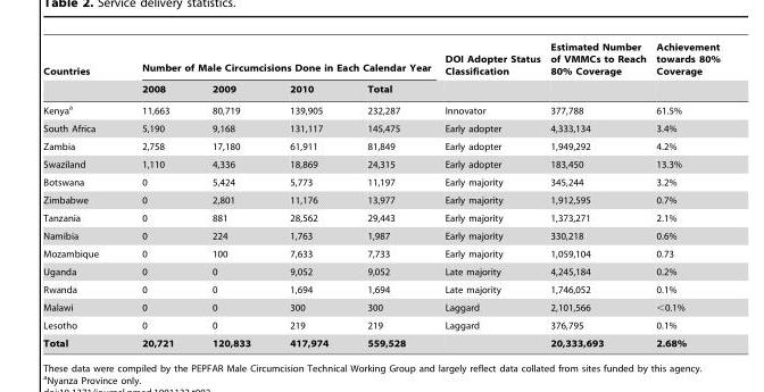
<table><thead><tr><td rowspan="2">Countries</td><td colspan="4">Number of Male Circumcisions Done in Each Calendar Year</td><td rowspan="2">DOI Adopter Status Classification</td><td rowspan="2">Estimated Number of VMMCs to Reach 80% Coverage</td><td rowspan="2">Achievement towards 80% Coverage</td></tr><tr><td>2008</td><td>2009</td><td>2010</td><td>Total</td></tr></thead><tbody><tr><td>Kenya<sup>a</sup></td><td>11,663</td><td>80,719</td><td>139,905</td><td>232,287</td><td>Innovator</td><td>377,788</td><td>61.5%</td></tr><tr><td>South Africa</td><td>5,190</td><td>9,168</td><td>131,117</td><td>145,475</td><td>Early adopter</td><td>4,333,134</td><td>3.4%</td></tr><tr><td>Zambia</td><td>2,758</td><td>17,180</td><td>61,911</td><td>81,849</td><td>Early adopter</td><td>1,949,292</td><td>4.2%</td></tr><tr><td>Swaziland</td><td>1,110</td><td>4,336</td><td>18,869</td><td>24,315</td><td>Early adopter</td><td>183,450</td><td>13.3%</td></tr><tr><td>Botswana</td><td>0</td><td>5,424</td><td>5,773</td><td>11,197</td><td>Early majority</td><td>345,244</td><td>3.2%</td></tr><tr><td>Zimbabwe</td><td>0</td><td>2,801</td><td>11,176</td><td>13,977</td><td>Early majority</td><td>1,912,595</td><td>0.7%</td></tr><tr><td>Tanzania</td><td>0</td><td>881</td><td>28,562</td><td>29,443</td><td>Early majority</td><td>1,373,271</td><td>2.1%</td></tr><tr><td>Namibia</td><td>0</td><td>224</td><td>1,763</td><td>1,987</td><td>Early majority</td><td>330,218</td><td>0.6%</td></tr><tr><td>Mozambique</td><td>0</td><td>100</td><td>7,633</td><td>7,733</td><td>Early majority</td><td>1,059,104</td><td>0.73</td></tr><tr><td>Uganda</td><td>0</td><td>0</td><td>9,052</td><td>9,052</td><td>Late majority</td><td>4,245,184</td><td>0.2%</td></tr><tr><td>Rwanda</td><td>0</td><td>0</td><td>1,694</td><td>1,694</td><td>Late majority</td><td>1,746,052</td><td>0.1%</td></tr><tr><td>Malawi</td><td>0</td><td>0</td><td>300</td><td>300</td><td>Laggard</td><td>2,101,566</td><td>&lt;0.1%</td></tr><tr><td>Lesotho</td><td>0</td><td>0</td><td>219</td><td>219</td><td>Laggard</td><td>376,795</td><td>0.1%</td></tr><tr><td>Total</td><td>20,721</td><td>120,833</td><td>417,974</td><td>559,528</td><td></td><td>20,333,693</td><td>2.68%</td></tr></tbody></table>